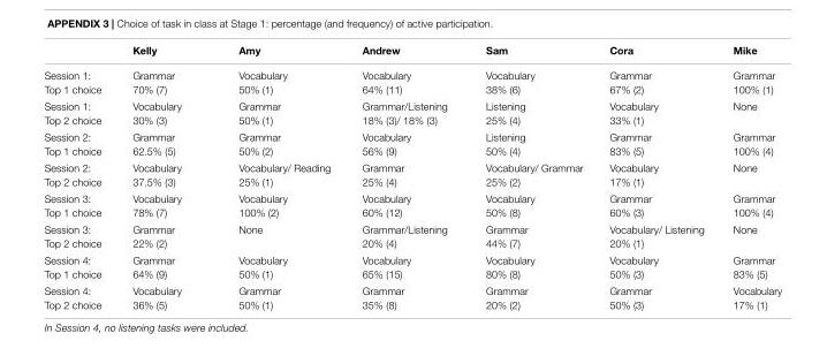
<table><thead><tr><td></td><td>Kelly</td><td>Amy</td><td>Andrew</td><td>Sam</td><td>Cora</td><td>Mike</td></tr></thead><tbody><tr><td>Session 1: Top 1 choice</td><td>Grammar 70% (7)</td><td>Vocabulary 50% (1)</td><td>Vocabulary 64% (11)</td><td>Vocabulary 38% (6)</td><td>Grammar 67% (2)</td><td>Grammar 100% (1)</td></tr><tr><td>Session 1: Top 2 choice</td><td>Vocabulary 30% (3)</td><td>Grammar 50% (1)</td><td>Grammar/Listening 18% (3)/ 18% (3)</td><td>Listening 25% (4)</td><td>Vocabulary 33% (1)</td><td>None</td></tr><tr><td>Session 2: Top 1 choice</td><td>Grammar 62.5% (5)</td><td>Grammar 50% (2)</td><td>Vocabulary 56% (9)</td><td>Listening 50% (4)</td><td>Grammar 83% (5)</td><td>Grammar 100% (4)</td></tr><tr><td>Session 2: Top 2 choice</td><td>Vocabulary 37.5% (3)</td><td>Vocabulary/ Reading 25% (1)</td><td>Grammar 25% (4)</td><td>Vocabulary/ Grammar 25% (2)</td><td>Vocabulary 17% (1)</td><td>None</td></tr><tr><td>Session 3: Top 1 choice</td><td>Vocabulary 78% (7)</td><td>Vocabulary 100% (2)</td><td>Vocabulary 60% (12)</td><td>Vocabulary 50% (8)</td><td>Grammar 60% (3)</td><td>Grammar 100% (4)</td></tr><tr><td>Session 3: Top 2 choice</td><td>Grammar 22% (2)</td><td>None</td><td>Grammar/Listening 20% (4)</td><td>Grammar 44% (7)</td><td>Vocabulary/ Listening 20% (1)</td><td>None</td></tr><tr><td>Session 4: Top 1 choice</td><td>Grammar 64% (9)</td><td>Vocabulary 50% (1)</td><td>Vocabulary 65% (15)</td><td>Vocabulary 80% (8)</td><td>Vocabulary 50% (3)</td><td>Grammar 83% (5)</td></tr><tr><td>Session 4: Top 2 choice</td><td>Vocabulary 36% (5)</td><td>Grammar 50% (1)</td><td>Grammar 35% (8)</td><td>Grammar 20% (2)</td><td>Grammar 50% (3)</td><td>Vocabulary 17% (1)</td></tr></tbody></table>